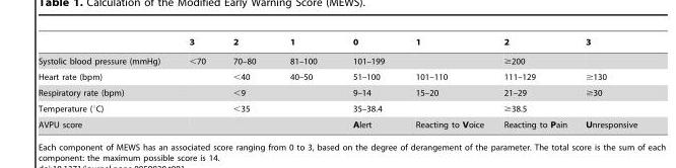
<table><thead><tr><td></td><td>3</td><td>2</td><td>1</td><td>0</td><td>1</td><td>2</td><td>3</td></tr></thead><tbody><tr><td>Systolic blood pressure (mmHg)</td><td>&lt;70</td><td>70–80</td><td>81–100</td><td>101–199</td><td></td><td>≥200</td><td></td></tr><tr><td>Heart rate (bpm)</td><td></td><td>&lt;40</td><td>40–50</td><td>51–100</td><td>101–110</td><td>111–129</td><td>≥130</td></tr><tr><td>Respiratory rate (bpm)</td><td></td><td>&lt;9</td><td></td><td>9–14</td><td>15–20</td><td>21–29</td><td>≥30</td></tr><tr><td>Temperature (°C)</td><td></td><td>&lt;35</td><td></td><td>35–38.4</td><td></td><td>≥38.5</td><td></td></tr><tr><td>AVPU score</td><td></td><td></td><td></td><td>Alert</td><td>Reacting to Voice</td><td>Reacting to Pain</td><td>Unresponsive</td></tr></tbody></table>